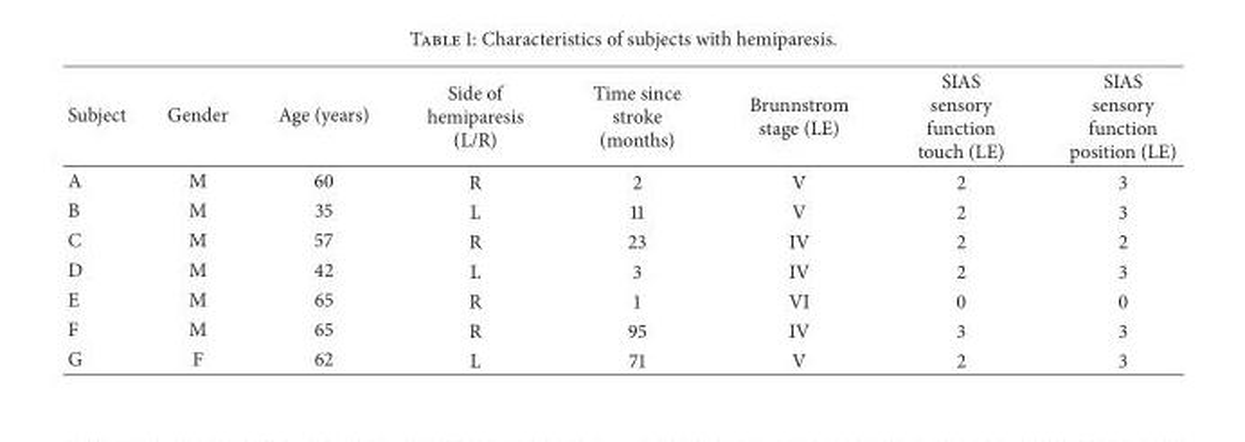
<table><thead><tr><td>Subject</td><td>Gender</td><td>Age (years)</td><td>Side of hemiparesis (L/R)</td><td>Time since stroke (months)</td><td>Brunnstrom stage (LE)</td><td>SIAS sensory function touch (LE)</td><td>SIAS sensory function position (LE)</td></tr></thead><tbody><tr><td>A</td><td>M</td><td>60</td><td>R</td><td>2</td><td>V</td><td>2</td><td>3</td></tr><tr><td>B</td><td>M</td><td>35</td><td>L</td><td>11</td><td>V</td><td>2</td><td>3</td></tr><tr><td>C</td><td>M</td><td>57</td><td>R</td><td>23</td><td>IV</td><td>2</td><td>2</td></tr><tr><td>D</td><td>M</td><td>42</td><td>L</td><td>3</td><td>IV</td><td>2</td><td>3</td></tr><tr><td>E</td><td>M</td><td>65</td><td>R</td><td>1</td><td>VI</td><td>0</td><td>0</td></tr><tr><td>F</td><td>M</td><td>65</td><td>R</td><td>95</td><td>IV</td><td>3</td><td>3</td></tr><tr><td>G</td><td>F</td><td>62</td><td>L</td><td>71</td><td>V</td><td>2</td><td>3</td></tr></tbody></table>